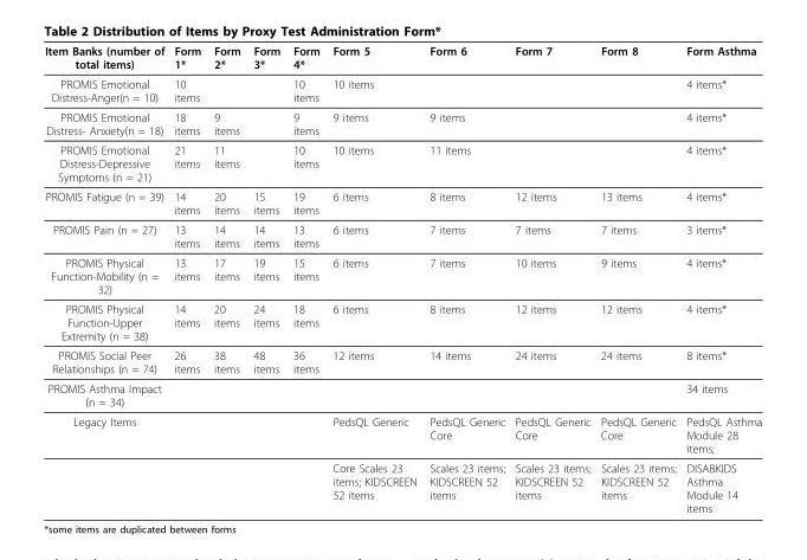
<table><thead><tr><td>Item Banks (number of total items)</td><td>Form 1*</td><td>Form 2*</td><td>Form 3*</td><td>Form 4*</td><td>Form 5</td><td>Form 6</td><td>Form 7</td><td>Form 8</td><td>Form Asthma</td></tr></thead><tbody><tr><td>PROMIS Emotional Distress-Anger(n = 10)</td><td>10 items</td><td></td><td></td><td>10 items</td><td>10 items</td><td></td><td></td><td></td><td>4 items*</td></tr><tr><td>PROMIS Emotional Distress- Anxiety(n = 18)</td><td>18 items</td><td>9 items</td><td></td><td>9 items</td><td>9 items</td><td>9 items</td><td></td><td></td><td>4 items*</td></tr><tr><td>PROMIS Emotional Distress-Depressive Symptoms (n = 21)</td><td>21 items</td><td>11 items</td><td></td><td>10 items</td><td>10 items</td><td>11 items</td><td></td><td></td><td>4 items*</td></tr><tr><td>PROMIS Fatigue (n = 39)</td><td>14 items</td><td>20 items</td><td>15 items</td><td>19 items</td><td>6 items</td><td>8 items</td><td>12 items</td><td>13 items</td><td>4 items*</td></tr><tr><td>PROMIS Pain (n = 27)</td><td>13 items</td><td>14 items</td><td>14 items</td><td>13 items</td><td>6 items</td><td>7 items</td><td>7 items</td><td>7 items</td><td>3 items*</td></tr><tr><td>PROMIS Physical Function-Mobility (n = 32)</td><td>13 items</td><td>17 items</td><td>19 items</td><td>15 items</td><td>6 items</td><td>7 items</td><td>10 items</td><td>9 items</td><td>4 items*</td></tr><tr><td>PROMIS Physical Function-Upper Extremity (n = 38)</td><td>14 items</td><td>20 items</td><td>24 items</td><td>18 items</td><td>6 items</td><td>8 items</td><td>12 items</td><td>12 items</td><td>4 items*</td></tr><tr><td>PROMIS Social Peer Relationships (n = 74)</td><td>26 items</td><td>38 items</td><td>48 items</td><td>36 items</td><td>12 items</td><td>14 items</td><td>24 items</td><td>24 items</td><td>8 items*</td></tr><tr><td>PROMIS Asthma Impact (n = 34)</td><td></td><td></td><td></td><td></td><td></td><td></td><td></td><td></td><td>34 items</td></tr><tr><td rowspan="2">Legacy Items</td><td></td><td></td><td></td><td></td><td>PedsQL Generic</td><td>PedsQL Generic Core</td><td>PedsQL Generic Core</td><td>PedsQL Generic Core</td><td>PedsQL Asthma Module 28 items;</td></tr><tr><td></td><td></td><td></td><td></td><td>Core Scales 23 items; KIDSCREEN 52 items</td><td>Scales 23 items; KIDSCREEN 52 items</td><td>Scales 23 items; KIDSCREEN 52 items</td><td>Scales 23 items; KIDSCREEN 52 items</td><td>DISABKIDS Asthma Module 14 items</td></tr></tbody></table>